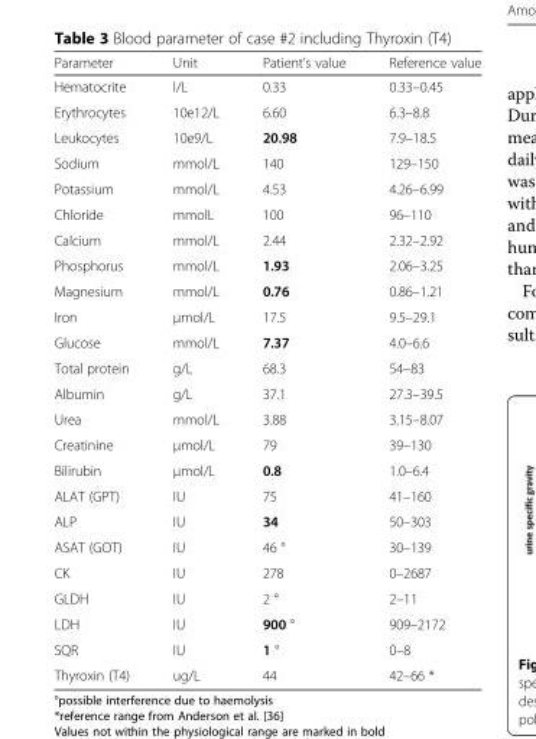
<table><thead><tr><td>Parameter</td><td>Unit</td><td>Patient’s value</td><td>Reference value</td></tr></thead><tbody><tr><td>Hematocrite</td><td>l/L</td><td>0.33</td><td>0.33–0.45</td></tr><tr><td>Erythrocytes</td><td>10e12/L</td><td>6.60</td><td>6.3–8.8</td></tr><tr><td>Leukocytes</td><td>10e9/L</td><td>20.98</td><td>7.9–18.5</td></tr><tr><td>Sodium</td><td>mmol/L</td><td>140</td><td>129–150</td></tr><tr><td>Potassium</td><td>mmol/L</td><td>4.53</td><td>4.26–6.99</td></tr><tr><td>Chloride</td><td>mmolL</td><td>100</td><td>96–110</td></tr><tr><td>Calcium</td><td>mmol/L</td><td>2.44</td><td>2.32–2.92</td></tr><tr><td>Phosphorus</td><td>mmol/L</td><td>1.93</td><td>2.06–3.25</td></tr><tr><td>Magnesium</td><td>mmol/L</td><td>0.76</td><td>0.86–1.21</td></tr><tr><td>Iron</td><td>μmol/L</td><td>17.5</td><td>9.5–29.1</td></tr><tr><td>Glucose</td><td>mmol/L</td><td>7.37</td><td>4.0–6.6</td></tr><tr><td>Total protein</td><td>g/L</td><td>68.3</td><td>54–83</td></tr><tr><td>Albumin</td><td>g/L</td><td>37.1</td><td>27.3–39.5</td></tr><tr><td>Urea</td><td>mmol/L</td><td>3.88</td><td>3.15–8.07</td></tr><tr><td>Creatinine</td><td>μmol/L</td><td>79</td><td>39–130</td></tr><tr><td>Bilirubin</td><td>μmol/L</td><td>0.8</td><td>1.0–6.4</td></tr><tr><td>ALAT (GPT)</td><td>IU</td><td>75</td><td>41–160</td></tr><tr><td>ALP</td><td>IU</td><td>34</td><td>50–303</td></tr><tr><td>ASAT (GOT)</td><td>IU</td><td>46 °</td><td>30–139</td></tr><tr><td>CK</td><td>IU</td><td>278</td><td>0–2687</td></tr><tr><td>GLDH</td><td>IU</td><td>2 °</td><td>2–11</td></tr><tr><td>LDH</td><td>IU</td><td>900 °</td><td>909–2172</td></tr><tr><td>SQR</td><td>IU</td><td>1 °</td><td>0–8</td></tr><tr><td>Thyroxin (T4)</td><td>ug/L</td><td>44</td><td>42–66 *</td></tr></tbody></table>